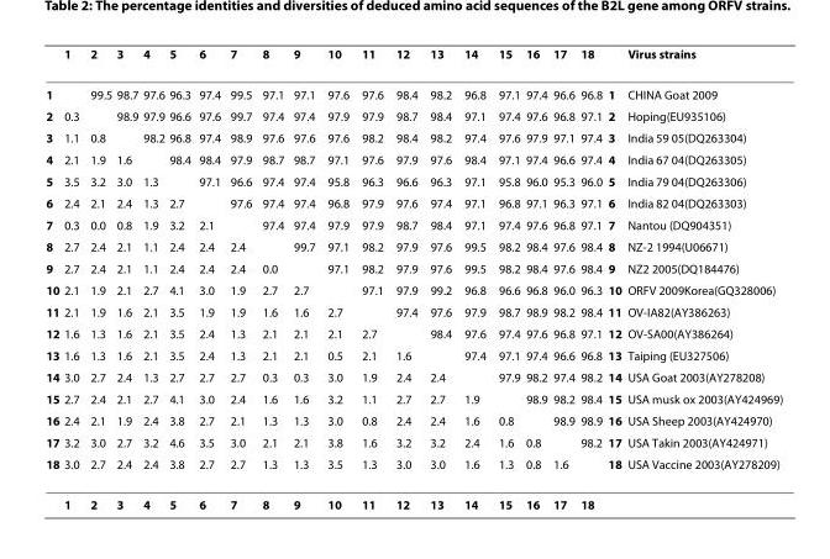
<table><thead><tr><td></td><td>1</td><td>2</td><td>3</td><td>4</td><td>5</td><td>6</td><td>7</td><td>8</td><td>9</td><td>10</td><td>11</td><td>12</td><td>13</td><td>14</td><td>15</td><td>16</td><td>17</td><td>18</td><td></td><td>Virus strains</td></tr></thead><tbody><tr><td>1</td><td></td><td>99.5</td><td>98.7</td><td>97.6</td><td>96.3</td><td>97.4</td><td>99.5</td><td>97.1</td><td>97.1</td><td>97.6</td><td>97.6</td><td>98.4</td><td>98.2</td><td>96.8</td><td>97.1</td><td>97.4</td><td>96.6</td><td>96.8</td><td>1</td><td>CHINA Goat 2009</td></tr><tr><td>2</td><td>0.3</td><td></td><td>98.9</td><td>97.9</td><td>96.6</td><td>97.6</td><td>99.7</td><td>97.4</td><td>97.4</td><td>97.9</td><td>97.9</td><td>98.7</td><td>98.4</td><td>97.1</td><td>97.4</td><td>97.6</td><td>96.8</td><td>97.1</td><td>2</td><td>Hoping(EU935106)</td></tr><tr><td>3</td><td>1.1</td><td>0.8</td><td></td><td>98.2</td><td>96.8</td><td>97.4</td><td>98.9</td><td>97.6</td><td>97.6</td><td>97.6</td><td>98.2</td><td>98.4</td><td>98.2</td><td>97.4</td><td>97.6</td><td>97.9</td><td>97.1</td><td>97.4</td><td>3</td><td>India 59 05(DQ263304)</td></tr><tr><td>4</td><td>2.1</td><td>1.9</td><td>1.6</td><td></td><td>98.4</td><td>98.4</td><td>97.9</td><td>98.7</td><td>98.7</td><td>97.1</td><td>97.6</td><td>97.9</td><td>97.6</td><td>98.4</td><td>97.1</td><td>97.4</td><td>96.6</td><td>97.4</td><td>4</td><td>India 67 04(DQ263305)</td></tr><tr><td>5</td><td>3.5</td><td>3.2</td><td>3.0</td><td>1.3</td><td></td><td>97.1</td><td>96.6</td><td>97.4</td><td>97.4</td><td>95.8</td><td>96.3</td><td>96.6</td><td>96.3</td><td>97.1</td><td>95.8</td><td>96.0</td><td>95.3</td><td>96.0</td><td>5</td><td>India 79 04(DQ263306)</td></tr><tr><td>6</td><td>2.4</td><td>2.1</td><td>2.4</td><td>1.3</td><td>2.7</td><td></td><td>97.6</td><td>97.4</td><td>97.4</td><td>96.8</td><td>97.9</td><td>97.6</td><td>97.4</td><td>97.1</td><td>96.8</td><td>97.1</td><td>96.3</td><td>97.1</td><td>6</td><td>India 82 04(DQ263303)</td></tr><tr><td>7</td><td>0.3</td><td>0.0</td><td>0.8</td><td>1.9</td><td>3.2</td><td>2.1</td><td></td><td>97.4</td><td>97.4</td><td>97.9</td><td>97.9</td><td>98.7</td><td>98.4</td><td>97.1</td><td>97.4</td><td>97.6</td><td>96.8</td><td>97.1</td><td>7</td><td>Nantou (DQ904351)</td></tr><tr><td>8</td><td>2.7</td><td>2.4</td><td>2.1</td><td>1.1</td><td>2.4</td><td>2.4</td><td>2.4</td><td></td><td>99.7</td><td>97.1</td><td>98.2</td><td>97.9</td><td>97.6</td><td>99.5</td><td>98.2</td><td>98.4</td><td>97.6</td><td>98.4</td><td>8</td><td>NZ-2 1994(U06671)</td></tr><tr><td>9</td><td>2.7</td><td>2.4</td><td>2.1</td><td>1.1</td><td>2.4</td><td>2.4</td><td>2.4</td><td>0.0</td><td></td><td>97.1</td><td>98.2</td><td>97.9</td><td>97.6</td><td>99.5</td><td>98.2</td><td>98.4</td><td>97.6</td><td>98.4</td><td>9</td><td>NZ2 2005(DQ184476)</td></tr><tr><td>10</td><td>2.1</td><td>1.9</td><td>2.1</td><td>2.7</td><td>4.1</td><td>3.0</td><td>1.9</td><td>2.7</td><td>2.7</td><td></td><td>97.1</td><td>97.9</td><td>99.2</td><td>96.8</td><td>96.6</td><td>96.8</td><td>96.0</td><td>96.3</td><td>10</td><td>ORFV 2009Korea(GQ328006)</td></tr><tr><td>11</td><td>2.1</td><td>1.9</td><td>1.6</td><td>2.1</td><td>3.5</td><td>1.9</td><td>1.9</td><td>1.6</td><td>1.6</td><td>2.7</td><td></td><td>97.4</td><td>97.6</td><td>97.9</td><td>98.7</td><td>98.9</td><td>98.2</td><td>98.4</td><td>11</td><td>OV-IA82(AY386263)</td></tr><tr><td>12</td><td>1.6</td><td>1.3</td><td>1.6</td><td>2.1</td><td>3.5</td><td>2.4</td><td>1.3</td><td>2.1</td><td>2.1</td><td>2.1</td><td>2.7</td><td></td><td>98.4</td><td>97.6</td><td>97.4</td><td>97.6</td><td>96.8</td><td>97.1</td><td>12</td><td>OV-SA00(AY386264)</td></tr><tr><td>13</td><td>1.6</td><td>1.3</td><td>1.6</td><td>2.1</td><td>3.5</td><td>2.4</td><td>1.3</td><td>2.1</td><td>2.1</td><td>0.5</td><td>2.1</td><td>1.6</td><td></td><td>97.4</td><td>97.1</td><td>97.4</td><td>96.6</td><td>96.8</td><td>13</td><td>Taiping (EU327506)</td></tr><tr><td>14</td><td>3.0</td><td>2.7</td><td>2.4</td><td>1.3</td><td>2.7</td><td>2.7</td><td>2.7</td><td>0.3</td><td>0.3</td><td>3.0</td><td>1.9</td><td>2.4</td><td>2.4</td><td></td><td>97.9</td><td>98.2</td><td>97.4</td><td>98.2</td><td>14</td><td>USA Goat 2003(AY278208)</td></tr><tr><td>15</td><td>2.7</td><td>2.4</td><td>2.1</td><td>2.7</td><td>4.1</td><td>3.0</td><td>2.4</td><td>1.6</td><td>1.6</td><td>3.2</td><td>1.1</td><td>2.7</td><td>2.7</td><td>1.9</td><td></td><td>98.9</td><td>98.2</td><td>98.4</td><td>15</td><td>USA musk ox 2003(AY424969)</td></tr><tr><td>16</td><td>2.4</td><td>2.1</td><td>1.9</td><td>2.4</td><td>3.8</td><td>2.7</td><td>2.1</td><td>1.3</td><td>1.3</td><td>3.0</td><td>0.8</td><td>2.4</td><td>2.4</td><td>1.6</td><td>0.8</td><td></td><td>98.9</td><td>98.9</td><td>16</td><td>USA Sheep 2003(AY424970)</td></tr><tr><td>17</td><td>3.2</td><td>3.0</td><td>2.7</td><td>3.2</td><td>4.6</td><td>3.5</td><td>3.0</td><td>2.1</td><td>2.1</td><td>3.8</td><td>1.6</td><td>3.2</td><td>3.2</td><td>2.4</td><td>1.6</td><td>0.8</td><td></td><td>98.2</td><td>17</td><td>USA Takin 2003(AY424971)</td></tr><tr><td rowspan="2">18</td><td>3.0</td><td>2.7</td><td>2.4</td><td>2.4</td><td>3.8</td><td>2.7</td><td>2.7</td><td>1.3</td><td>1.3</td><td>3.5</td><td>1.3</td><td>3.0</td><td>3.0</td><td>1.6</td><td>1.3</td><td>0.8</td><td>1.6</td><td></td><td>18</td><td>USA Vaccine 2003(AY278209)</td></tr><tr><td>1</td><td>2</td><td>3</td><td>4</td><td>5</td><td>6</td><td>7</td><td>8</td><td>9</td><td>10</td><td>11</td><td>12</td><td>13</td><td>14</td><td>15</td><td>16</td><td>17</td><td>18</td><td></td><td></td></tr></tbody></table>